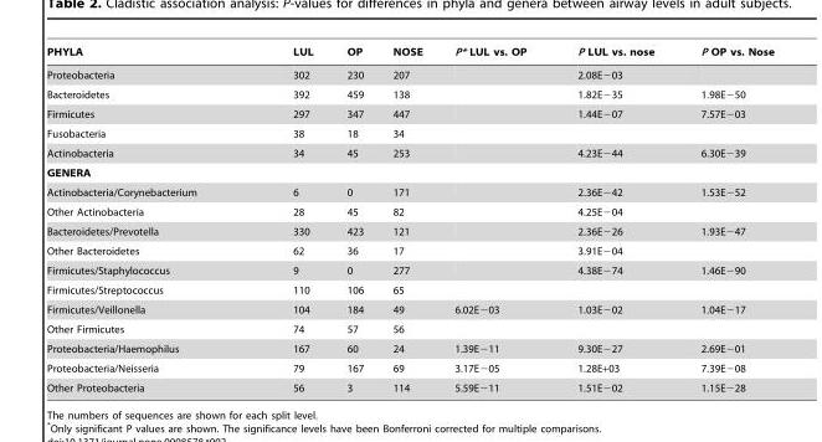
<table><thead><tr><td>PHYLA</td><td>LUL</td><td>OP</td><td>NOSE</td><td>P* LUL vs. OP</td><td>P LUL vs. nose</td><td>P OP vs. Nose</td></tr></thead><tbody><tr><td>Proteobacteria</td><td>302</td><td>230</td><td>207</td><td></td><td>2.08E−03</td><td></td></tr><tr><td>Bacteroidetes</td><td>392</td><td>459</td><td>138</td><td></td><td>1.82E−35</td><td>1.98E−50</td></tr><tr><td>Firmicutes</td><td>297</td><td>347</td><td>447</td><td></td><td>1.44E−07</td><td>7.57E−03</td></tr><tr><td>Fusobacteria</td><td>38</td><td>18</td><td>34</td><td></td><td></td><td></td></tr><tr><td>Actinobacteria</td><td>34</td><td>45</td><td>253</td><td></td><td>4.23E−44</td><td>6.30E−39</td></tr><tr><td colspan="7">GENERA</td></tr><tr><td>Actinobacteria/Corynebacterium</td><td>6</td><td>0</td><td>171</td><td></td><td>2.36E−42</td><td>1.53E−52</td></tr><tr><td>Other Actinobacteria</td><td>28</td><td>45</td><td>82</td><td></td><td>4.25E−04</td><td></td></tr><tr><td>Bacteroidetes/Prevotella</td><td>330</td><td>423</td><td>121</td><td></td><td>2.36E−26</td><td>1.93E−47</td></tr><tr><td>Other Bacteroidetes</td><td>62</td><td>36</td><td>17</td><td></td><td>3.91E−04</td><td></td></tr><tr><td>Firmicutes/Staphylococcus</td><td>9</td><td>0</td><td>277</td><td></td><td>4.38E−74</td><td>1.46E−90</td></tr><tr><td>Firmicutes/Streptococcus</td><td>110</td><td>106</td><td>65</td><td></td><td></td><td></td></tr><tr><td>Firmicutes/Veillonella</td><td>104</td><td>184</td><td>49</td><td>6.02E−03</td><td>1.03E−02</td><td>1.04E−17</td></tr><tr><td>Other Firmicutes</td><td>74</td><td>57</td><td>56</td><td></td><td></td><td></td></tr><tr><td>Proteobacteria/Haemophilus</td><td>167</td><td>60</td><td>24</td><td>1.39E−11</td><td>9.30E−27</td><td>2.69E−01</td></tr><tr><td>Proteobacteria/Neisseria</td><td>79</td><td>167</td><td>69</td><td>3.17E−05</td><td>1.28E+03</td><td>7.39E−08</td></tr><tr><td>Other Proteobacteria</td><td>56</td><td>3</td><td>114</td><td>5.59E−11</td><td>1.51E−02</td><td>1.15E−28</td></tr></tbody></table>